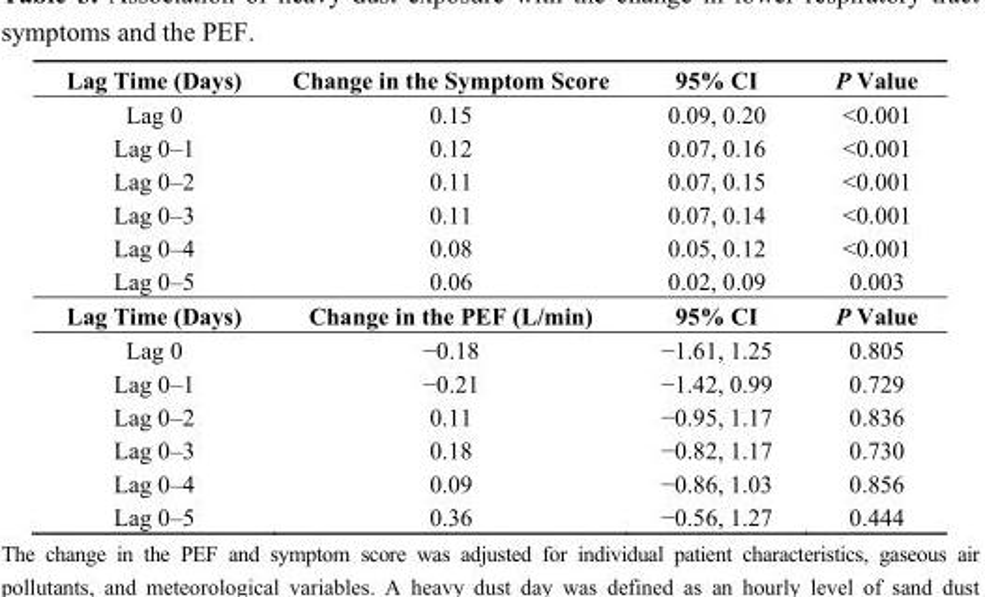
<table><tbody><tr><td>Lag Time (Days)</td><td>Change in the Symptom Score</td><td>95% CI</td><td>P Value</td></tr><tr><td>Lag 0</td><td>0.15</td><td>0.09, 0.20</td><td>&lt;0.001</td></tr><tr><td>Lag 0–1</td><td>0.12</td><td>0.07, 0.16</td><td>&lt;0.001</td></tr><tr><td>Lag 0–2</td><td>0.11</td><td>0.07, 0.15</td><td>&lt;0.001</td></tr><tr><td>Lag 0–3</td><td>0.11</td><td>0.07, 0.14</td><td>&lt;0.001</td></tr><tr><td>Lag 0–4</td><td>0.08</td><td>0.05, 0.12</td><td>&lt;0.001</td></tr><tr><td>Lag 0–5</td><td>0.06</td><td>0.02, 0.09</td><td>0.003</td></tr><tr><td>Lag Time (Days)</td><td>Change in the PEF (L/min)</td><td>95% CI</td><td>P Value</td></tr><tr><td>Lag 0</td><td>−0.18</td><td>−1.61, 1.25</td><td>0.805</td></tr><tr><td>Lag 0–1</td><td>−0.21</td><td>−1.42, 0.99</td><td>0.729</td></tr><tr><td>Lag 0–2</td><td>0.11</td><td>−0.95, 1.17</td><td>0.836</td></tr><tr><td>Lag 0–3</td><td>0.18</td><td>−0.82, 1.17</td><td>0.730</td></tr><tr><td>Lag 0–4</td><td>0.09</td><td>−0.86, 1.03</td><td>0.856</td></tr><tr><td>Lag 0–5</td><td>0.36</td><td>−0.56, 1.27</td><td>0.444</td></tr></tbody></table>